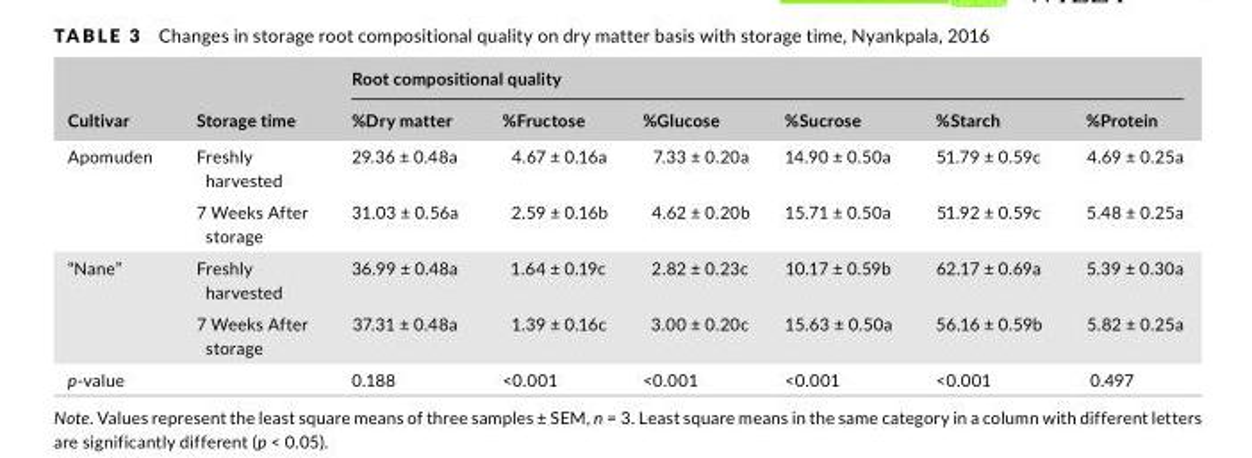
<table><thead><tr><td rowspan="2">Cultivar</td><td rowspan="2">Storage time</td><td colspan="6">Root compositional quality</td></tr><tr><td>%Dry matter</td><td>%Fructose</td><td>%Glucose</td><td>%Sucrose</td><td>%Starch</td><td>%Protein</td></tr></thead><tbody><tr><td rowspan="2">Apomuden</td><td>Freshly harvested</td><td>29.36 ± 0.48a</td><td>4.67 ± 0.16a</td><td>7.33 ± 0.20a</td><td>14.90 ± 0.50a</td><td>51.79 ± 0.59c</td><td>4.69 ± 0.25a</td></tr><tr><td>7 Weeks After storage</td><td>31.03 ± 0.56a</td><td>2.59 ± 0.16b</td><td>4.62 ± 0.20b</td><td>15.71 ± 0.50a</td><td>51.92 ± 0.59c</td><td>5.48 ± 0.25a</td></tr><tr><td rowspan="2">“Nane”</td><td>Freshly harvested</td><td>36.99 ± 0.48a</td><td>1.64 ± 0.19c</td><td>2.82 ± 0.23c</td><td>10.17 ± 0.59b</td><td>62.17 ± 0.69a</td><td>5.39 ± 0.30a</td></tr><tr><td>7 Weeks After storage</td><td>37.31 ± 0.48a</td><td>1.39 ± 0.16c</td><td>3.00 ± 0.20c</td><td>15.63 ± 0.50a</td><td>56.16 ± 0.59b</td><td>5.82 ± 0.25a</td></tr><tr><td colspan="2">p- value</td><td>0.188</td><td>&lt;0.001</td><td>&lt;0.001</td><td>&lt;0.001</td><td>&lt;0.001</td><td>0.497</td></tr></tbody></table>